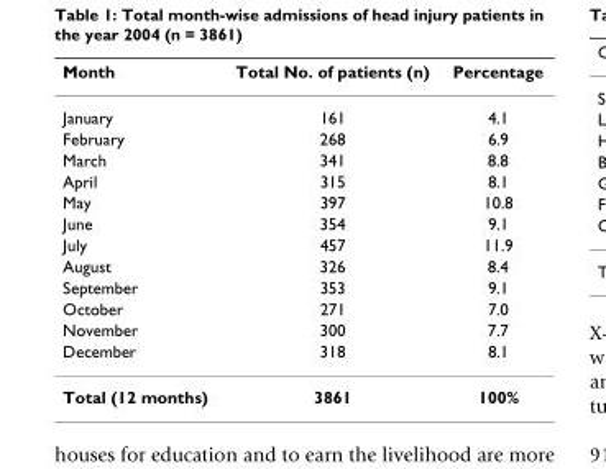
<table><thead><tr><td>Month</td><td>Total No. of patients (n)</td><td>Percentage</td></tr></thead><tbody><tr><td>January</td><td>161</td><td>4.1</td></tr><tr><td>February</td><td>268</td><td>6.9</td></tr><tr><td>March</td><td>341</td><td>8.8</td></tr><tr><td>April</td><td>315</td><td>8.1</td></tr><tr><td>May</td><td>397</td><td>10.8</td></tr><tr><td>June</td><td>354</td><td>9.1</td></tr><tr><td>July</td><td>457</td><td>11.9</td></tr><tr><td>August</td><td>326</td><td>8.4</td></tr><tr><td>September</td><td>353</td><td>9.1</td></tr><tr><td>October</td><td>271</td><td>7.0</td></tr><tr><td>November</td><td>300</td><td>7.7</td></tr><tr><td>December</td><td>318</td><td>8.1</td></tr><tr><td>Total (12 months)</td><td>3861</td><td>100%</td></tr></tbody></table>